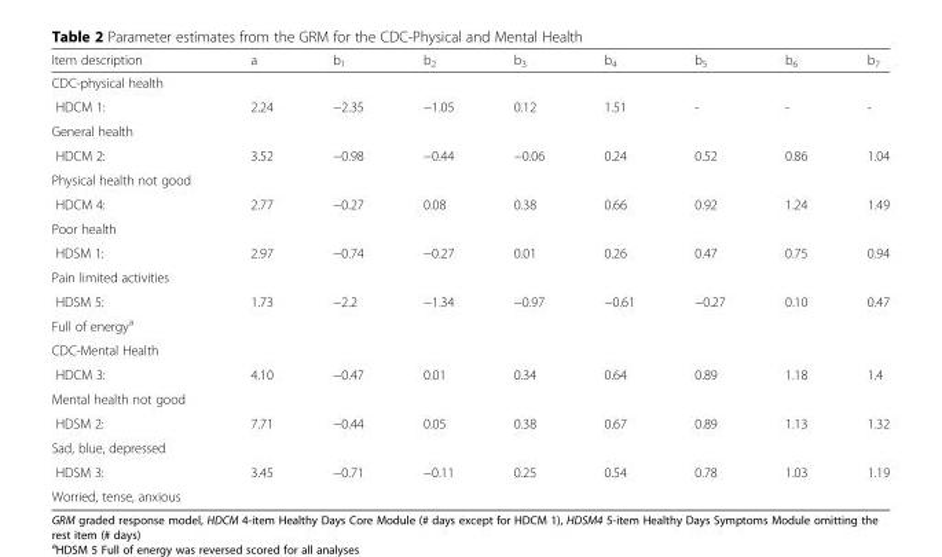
<table><thead><tr><td>Item description</td><td>a</td><td>b<sub>1</sub></td><td>b<sub>2</sub></td><td>b<sub>3</sub></td><td>b<sub>4</sub></td><td>b<sub>5</sub></td><td>b<sub>6</sub></td><td>b<sub>7</sub></td></tr></thead><tbody><tr><td colspan="9">CDC-physical health</td></tr><tr><td>HDCM 1:</td><td rowspan="2">2.24</td><td rowspan="2">−2.35</td><td rowspan="2">−1.05</td><td rowspan="2">0.12</td><td rowspan="2">1.51</td><td rowspan="2">-</td><td rowspan="2">-</td><td rowspan="2">-</td></tr><tr><td>General health</td></tr><tr><td>HDCM 2:</td><td rowspan="2">3.52</td><td rowspan="2">−0.98</td><td rowspan="2">−0.44</td><td rowspan="2">−0.06</td><td rowspan="2">0.24</td><td rowspan="2">0.52</td><td rowspan="2">0.86</td><td rowspan="2">1.04</td></tr><tr><td>Physical health not good</td></tr><tr><td>HDCM 4:</td><td rowspan="2">2.77</td><td rowspan="2">−0.27</td><td rowspan="2">0.08</td><td rowspan="2">0.38</td><td rowspan="2">0.66</td><td rowspan="2">0.92</td><td rowspan="2">1.24</td><td rowspan="2">1.49</td></tr><tr><td>Poor health</td></tr><tr><td>HDSM 1:</td><td rowspan="2">2.97</td><td rowspan="2">−0.74</td><td rowspan="2">−0.27</td><td rowspan="2">0.01</td><td rowspan="2">0.26</td><td rowspan="2">0.47</td><td rowspan="2">0.75</td><td rowspan="2">0.94</td></tr><tr><td>Pain limited activities</td></tr><tr><td>HDSM 5:</td><td rowspan="2">1.73</td><td rowspan="2">−2.2</td><td rowspan="2">−1.34</td><td rowspan="2">−0.97</td><td rowspan="2">−0.61</td><td rowspan="2">−0.27</td><td rowspan="2">0.10</td><td rowspan="2">0.47</td></tr><tr><td>Full of energy<sup>a</sup></td></tr><tr><td colspan="9">CDC-Mental Health</td></tr><tr><td>HDCM 3:</td><td rowspan="2">4.10</td><td rowspan="2">−0.47</td><td rowspan="2">0.01</td><td rowspan="2">0.34</td><td rowspan="2">0.64</td><td rowspan="2">0.89</td><td rowspan="2">1.18</td><td rowspan="2">1.4</td></tr><tr><td>Mental health not good</td></tr><tr><td>HDSM 2:</td><td rowspan="2">7.71</td><td rowspan="2">−0.44</td><td rowspan="2">0.05</td><td rowspan="2">0.38</td><td rowspan="2">0.67</td><td rowspan="2">0.89</td><td rowspan="2">1.13</td><td rowspan="2">1.32</td></tr><tr><td>Sad, blue, depressed</td></tr><tr><td>HDSM 3:</td><td rowspan="2">3.45</td><td rowspan="2">−0.71</td><td rowspan="2">−0.11</td><td rowspan="2">0.25</td><td rowspan="2">0.54</td><td rowspan="2">0.78</td><td rowspan="2">1.03</td><td rowspan="2">1.19</td></tr><tr><td>Worried, tense, anxious</td></tr></tbody></table>